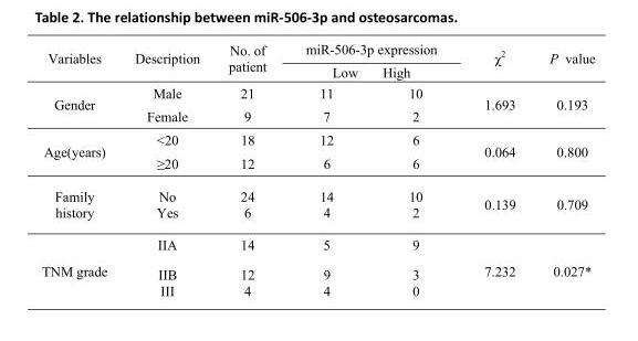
<table><tbody><tr><td rowspan="2">Variables</td><td rowspan="2">Description</td><td rowspan="2">No. of patient</td><td colspan="2">miR-506-3p expression</td><td rowspan="2">χ<sup>2</sup></td><td rowspan="2">P value</td></tr><tr><td colspan="2">Low High</td></tr><tr><td rowspan="2">Gender</td><td>Male</td><td>21</td><td>11</td><td>10</td><td rowspan="2">1.693</td><td rowspan="2">0.193</td></tr><tr><td>Female</td><td>9</td><td>7</td><td>2</td></tr><tr><td rowspan="2">Age(years)</td><td>&lt;20</td><td>18</td><td>12</td><td>6</td><td rowspan="2">0.064</td><td rowspan="2">0.800</td></tr><tr><td>≥20</td><td>12</td><td>6</td><td>6</td></tr><tr><td>Family history</td><td>No Yes</td><td>24 6</td><td>14 4</td><td>10 2</td><td>0.139</td><td>0.709</td></tr><tr><td rowspan="2">TNM grade</td><td>IIA</td><td>14</td><td>5</td><td>9</td><td rowspan="2">7.232</td><td rowspan="2">0.027*</td></tr><tr><td>IIB III</td><td>12 4</td><td>9 4</td><td>3 0</td></tr></tbody></table>